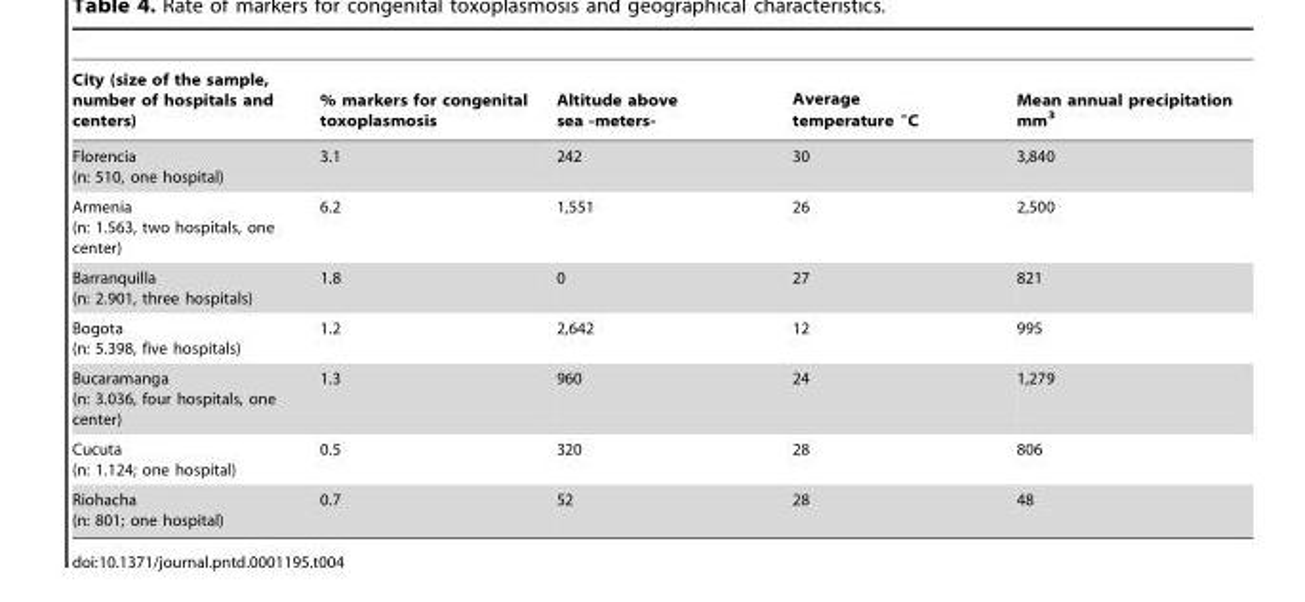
<table><thead><tr><td>City (size of the sample, number of hospitals and centers)</td><td>% markers for congenital toxoplasmosis</td><td>Altitude above sea -meters-</td><td>Average temperature °C</td><td>Mean annual precipitation mm<sup>3</sup></td></tr></thead><tbody><tr><td>Florencia (n: 510, one hospital)</td><td>3.1</td><td>242</td><td>30</td><td>3,840</td></tr><tr><td>Armenia (n: 1.563, two hospitals, one center)</td><td>6.2</td><td>1,551</td><td>26</td><td>2,500</td></tr><tr><td>Barranquilla (n: 2.901, three hospitals)</td><td>1.8</td><td>0</td><td>27</td><td>821</td></tr><tr><td>Bogota (n: 5.398, five hospitals)</td><td>1.2</td><td>2,642</td><td>12</td><td>995</td></tr><tr><td>Bucaramanga (n: 3.036, four hospitals, one center)</td><td>1.3</td><td>960</td><td>24</td><td>1,279</td></tr><tr><td>Cucuta (n: 1.124; one hospital)</td><td>0.5</td><td>320</td><td>28</td><td>806</td></tr><tr><td>Riohacha (n: 801; one hospital)</td><td>0.7</td><td>52</td><td>28</td><td>48</td></tr></tbody></table>